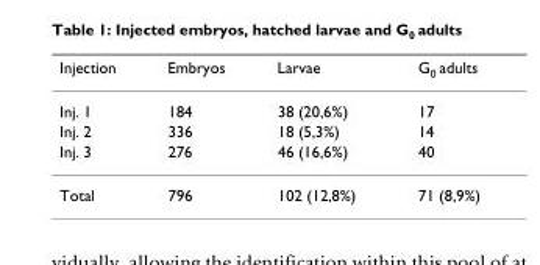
<table><thead><tr><td>Injection</td><td>Embryos</td><td>Larvae</td><td>G<sub>0</sub> adults</td></tr></thead><tbody><tr><td>Inj. 1</td><td>184</td><td>38 (20,6%)</td><td>17</td></tr><tr><td>Inj. 2</td><td>336</td><td>18 (5,3%)</td><td>14</td></tr><tr><td>Inj. 3</td><td>276</td><td>46 (16,6%)</td><td>40</td></tr><tr><td>Total</td><td>796</td><td>102 (12,8%)</td><td>71 (8,9%)</td></tr></tbody></table>